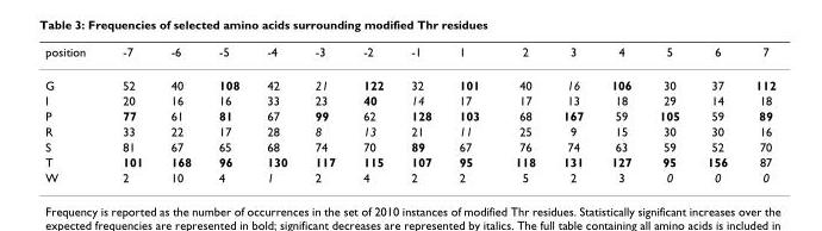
<table><thead><tr><td>position</td><td>-7</td><td>-6</td><td>-5</td><td>-4</td><td>-3</td><td>-2</td><td>-1</td><td>1</td><td>2</td><td>3</td><td>4</td><td>5</td><td>6</td><td>7</td></tr></thead><tbody><tr><td>G</td><td>52</td><td>40</td><td>108</td><td>42</td><td>21</td><td>122</td><td>32</td><td>101</td><td>40</td><td>16</td><td>106</td><td>30</td><td>37</td><td>112</td></tr><tr><td>I</td><td>20</td><td>16</td><td>16</td><td>33</td><td>23</td><td>40</td><td>14</td><td>17</td><td>17</td><td>13</td><td>18</td><td>29</td><td>14</td><td>18</td></tr><tr><td>P</td><td>77</td><td>61</td><td>81</td><td>67</td><td>99</td><td>62</td><td>128</td><td>103</td><td>68</td><td>167</td><td>59</td><td>105</td><td>59</td><td>89</td></tr><tr><td>R</td><td>33</td><td>22</td><td>17</td><td>28</td><td>8</td><td>13</td><td>21</td><td>11</td><td>25</td><td>9</td><td>15</td><td>30</td><td>30</td><td>16</td></tr><tr><td>S</td><td>81</td><td>67</td><td>65</td><td>68</td><td>74</td><td>70</td><td>89</td><td>67</td><td>76</td><td>74</td><td>63</td><td>59</td><td>52</td><td>70</td></tr><tr><td>T</td><td>101</td><td>168</td><td>96</td><td>130</td><td>117</td><td>115</td><td>107</td><td>95</td><td>118</td><td>131</td><td>127</td><td>95</td><td>156</td><td>87</td></tr><tr><td>W</td><td>2</td><td>10</td><td>4</td><td>1</td><td>2</td><td>4</td><td>2</td><td>2</td><td>5</td><td>2</td><td>3</td><td>0</td><td>0</td><td>0</td></tr></tbody></table>